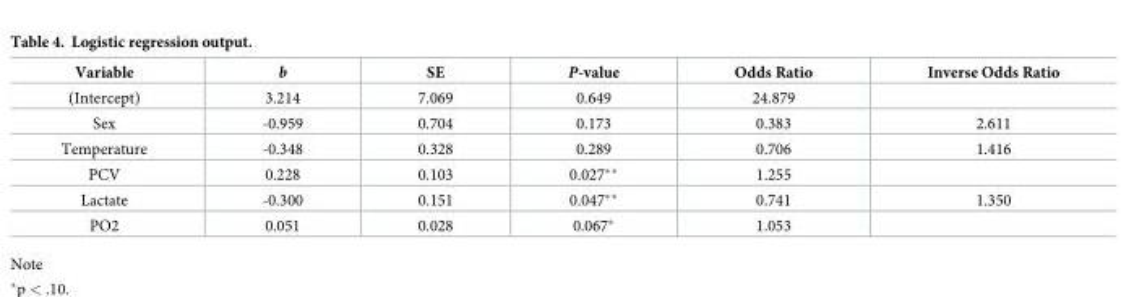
<table><thead><tr><td>Variable</td><td>b</td><td>SE</td><td>P-value</td><td>Odds Ratio</td><td>Inverse Odds Ratio</td></tr></thead><tbody><tr><td>(Intercept)</td><td>3.214</td><td>7.069</td><td>0.649</td><td>24.879</td><td></td></tr><tr><td>Sex</td><td>-0.959</td><td>0.704</td><td>0.173</td><td>0.383</td><td>2.611</td></tr><tr><td>Temperature</td><td>-0.348</td><td>0.328</td><td>0.289</td><td>0.706</td><td>1.416</td></tr><tr><td>PCV</td><td>0.228</td><td>0.103</td><td>0.027**</td><td>1.255</td><td></td></tr><tr><td>Lactate</td><td>-0.300</td><td>0.151</td><td>0.047**</td><td>0.741</td><td>1.350</td></tr><tr><td>PO2</td><td>0.051</td><td>0.028</td><td>0.067*</td><td>1.053</td><td></td></tr></tbody></table>